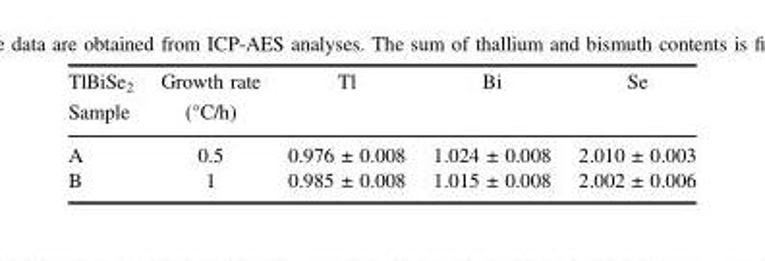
<table><thead><tr><td>TlBiSe<sub>2</sub></td><td>Growth rate</td><td>Tl</td><td>Bi</td><td>Se</td></tr></thead><tbody><tr><td>Sample</td><td>(°C/h)</td><td></td><td></td><td></td></tr><tr><td>A</td><td>0.5</td><td>0.976 ± 0.008</td><td>1.024 ± 0.008</td><td>2.010 ± 0.003</td></tr><tr><td>B</td><td>1</td><td>0.985 ± 0.008</td><td>1.015 ± 0.008</td><td>2.002 ± 0.006</td></tr></tbody></table>